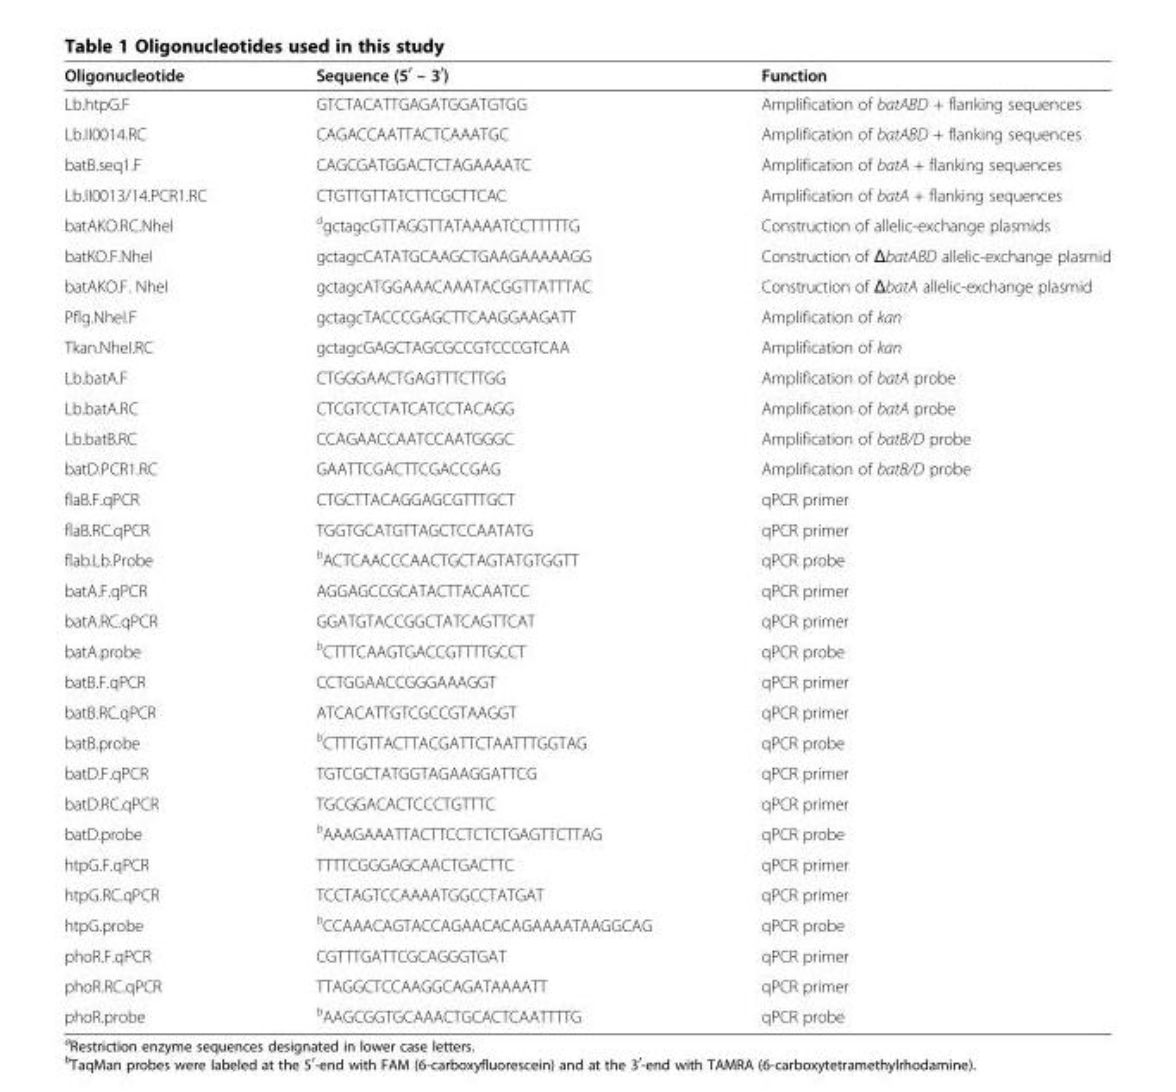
<table><thead><tr><td>Oligonucleotide</td><td>Sequence (5<sup>′</sup> – 3<sup>′</sup>)</td><td>Function</td></tr></thead><tbody><tr><td>Lb.htpG.F</td><td>GTCTACATTGAGATGGATGTGG</td><td>Amplification of batABD + flanking sequences</td></tr><tr><td>Lb.II0014.RC</td><td>CAGACCAATTACTCAAATGC</td><td>Amplification of batABD + flanking sequences</td></tr><tr><td>batB.seq1.F</td><td>CAGCGATGGACTCTAGAAAATC</td><td>Amplification of batA + flanking sequences</td></tr><tr><td>Lb.II0013/14.PCR1.RC</td><td>CTGTTGTTATCTTCGCTTCAC</td><td>Amplification of batA + flanking sequences</td></tr><tr><td>batAKO.RC.NheI</td><td><sup>a</sup>gctagcGTTAGGTTATAAAATCCTTTTTG</td><td>Construction of allelic-exchange plasmids</td></tr><tr><td>batKO.F.NheI</td><td>gctagcCATATGCAAGCTGAAGAAAAAGG</td><td>Construction of ΔbatABD allelic-exchange plasmid</td></tr><tr><td>batAKO.F. NheI</td><td>gctagcATGGAAACAAATACGGTTATTTAC</td><td>Construction of ΔbatA allelic-exchange plasmid</td></tr><tr><td>Pflg.NheI.F</td><td>gctagcTACCCGAGCTTCAAGGAAGATT</td><td>Amplification of kan</td></tr><tr><td>Tkan.NheI.RC</td><td>gctagcGAGCTAGCGCCGTCCCGTCAA</td><td>Amplification of kan</td></tr><tr><td>Lb.batA.F</td><td>CTGGGAACTGAGTTTCTTGG</td><td>Amplification of batA probe</td></tr><tr><td>Lb.batA.RC</td><td>CTCGTCCTATCATCCTACAGG</td><td>Amplification of batA probe</td></tr><tr><td>Lb.batB.RC</td><td>CCAGAACCAATCCAATGGGC</td><td>Amplification of batB/D probe</td></tr><tr><td>batD.PCR1.RC</td><td>GAATTCGACTTCGACCGAG</td><td>Amplification of batB/D probe</td></tr><tr><td>flaB.F.qPCR</td><td>CTGCTTACAGGAGCGTTTGCT</td><td>qPCR primer</td></tr><tr><td>flaB.RC.qPCR</td><td>TGGTGCATGTTAGCTCCAATATG</td><td>qPCR primer</td></tr><tr><td>flab.Lb.Probe</td><td><sup>b</sup>ACTCAACCCAACTGCTAGTATGTGGTT</td><td>qPCR probe</td></tr><tr><td>batA.F.qPCR</td><td>AGGAGCCGCATACTTACAATCC</td><td>qPCR primer</td></tr><tr><td>batA.RC.qPCR</td><td>GGATGTACCGGCTATCAGTTCAT</td><td>qPCR primer</td></tr><tr><td>batA.probe</td><td><sup>b</sup>CTTTCAAGTGACCGTTTTGCCT</td><td>qPCR probe</td></tr><tr><td>batB.F.qPCR</td><td>CCTGGAACCGGGAAAGGT</td><td>qPCR primer</td></tr><tr><td>batB.RC.qPCR</td><td>ATCACATTGTCGCCGTAAGGT</td><td>qPCR primer</td></tr><tr><td>batB.probe</td><td><sup>b</sup>CTTTGTTACTTACGATTCTAATTTGGTAG</td><td>qPCR probe</td></tr><tr><td>batD.F.qPCR</td><td>TGTCGCTATGGTAGAAGGATTCG</td><td>qPCR primer</td></tr><tr><td>batD.RC.qPCR</td><td>TGCGGACACTCCCTGTTTC</td><td>qPCR primer</td></tr><tr><td>batD.probe</td><td><sup>b</sup>AAAGAAATTACTTCCTCTCTGAGTTCTTAG</td><td>qPCR probe</td></tr><tr><td>htpG.F.qPCR</td><td>TTTTCGGGAGCAACTGACTTC</td><td>qPCR primer</td></tr><tr><td>htpG.RC.qPCR</td><td>TCCTAGTCCAAAATGGCCTATGAT</td><td>qPCR primer</td></tr><tr><td>htpG.probe</td><td><sup>b</sup>CCAAACAGTACCAGAACACAGAAAATAAGGCAG</td><td>qPCR probe</td></tr><tr><td>phoR.F.qPCR</td><td>CGTTTGATTCGCAGGGTGAT</td><td>qPCR primer</td></tr><tr><td>phoR.RC.qPCR</td><td>TTAGGCTCCAAGGCAGATAAAATT</td><td>qPCR primer</td></tr><tr><td>phoR.probe</td><td><sup>b</sup>AAGCGGTGCAAACTGCACTCAATTTTG</td><td>qPCR probe</td></tr></tbody></table>